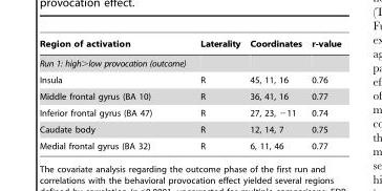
<table><thead><tr><td>Region of activation</td><td>Laterality</td><td>Coordinates</td><td>r-value</td></tr></thead><tbody><tr><td colspan="4">Run 1: high&gt;low provocation (outcome)</td></tr><tr><td>Insula</td><td>R</td><td>45, 11, 16</td><td>0.76</td></tr><tr><td>Middle frontal gyrus (BA 10)</td><td>R</td><td>36, 41, 16</td><td>0.77</td></tr><tr><td>Inferior frontal gyrus (BA 47)</td><td>R</td><td>27, 23, −11</td><td>0.74</td></tr><tr><td>Caudate body</td><td>R</td><td>12, 14, 7</td><td>0.75</td></tr><tr><td>Medial frontal gyrus (BA 32)</td><td>R</td><td>6, 11, 46</td><td>0.77</td></tr></tbody></table>